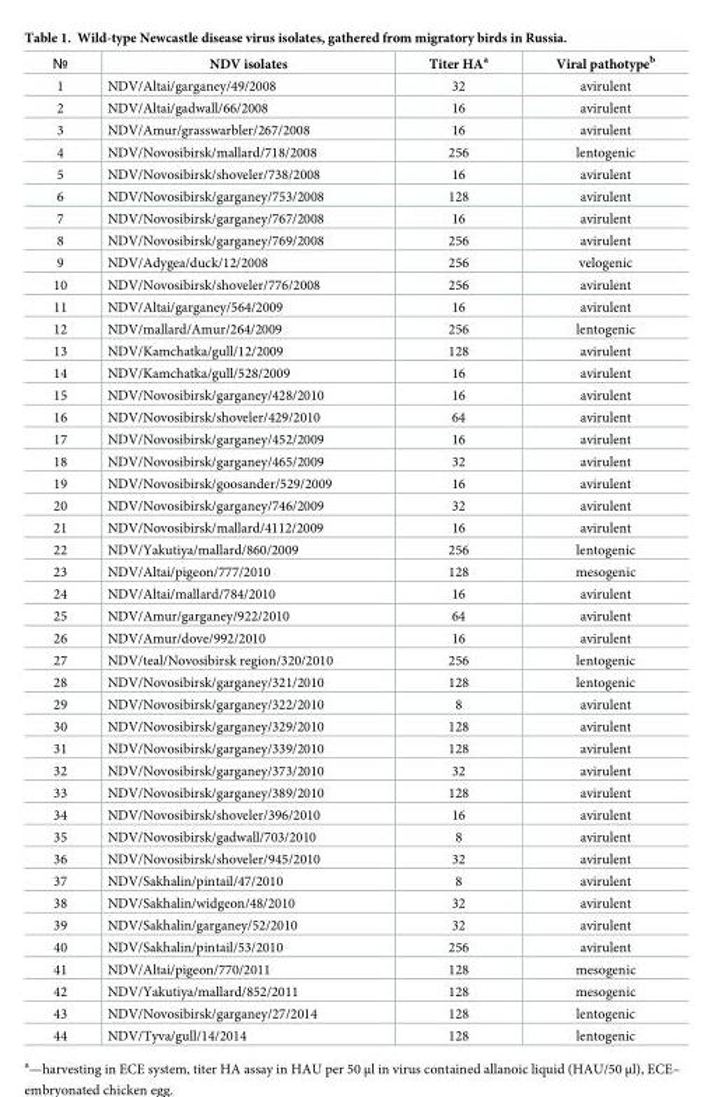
<table><thead><tr><td>№</td><td>NDV isolates</td><td>Titer HA<sup>a</sup></td><td>Viral pathotype<sup>b</sup></td></tr></thead><tbody><tr><td>1</td><td>NDV/Altai/garganey/49/2008</td><td>32</td><td>avirulent</td></tr><tr><td>2</td><td>NDV/Altai/gadwall/66/2008</td><td>16</td><td>avirulent</td></tr><tr><td>3</td><td>NDV/Amur/grasswarbler/267/2008</td><td>16</td><td>avirulent</td></tr><tr><td>4</td><td>NDV/Novosibirsk/mallard/718/2008</td><td>256</td><td>lentogenic</td></tr><tr><td>5</td><td>NDV/Novosibirsk/shoveler/738/2008</td><td>16</td><td>avirulent</td></tr><tr><td>6</td><td>NDV/Novosibirsk/garganey/753/2008</td><td>128</td><td>avirulent</td></tr><tr><td>7</td><td>NDV/Novosibirsk/garganey/767/2008</td><td>16</td><td>avirulent</td></tr><tr><td>8</td><td>NDV/Novosibirsk/garganey/769/2008</td><td>256</td><td>avirulent</td></tr><tr><td>9</td><td>NDV/Adygea/duck/12/2008</td><td>256</td><td>velogenic</td></tr><tr><td>10</td><td>NDV/Novosibirsk/shoveler/776/2008</td><td>256</td><td>avirulent</td></tr><tr><td>11</td><td>NDV/Altai/garganey/564/2009</td><td>16</td><td>avirulent</td></tr><tr><td>12</td><td>NDV/mallard/Amur/264/2009</td><td>256</td><td>lentogenic</td></tr><tr><td>13</td><td>NDV/Kamchatka/gull/12/2009</td><td>128</td><td>avirulent</td></tr><tr><td>14</td><td>NDV/Kamchatka/gull/528/2009</td><td>16</td><td>avirulent</td></tr><tr><td>15</td><td>NDV/Novosibirsk/garganey/428/2010</td><td>16</td><td>avirulent</td></tr><tr><td>16</td><td>NDV/Novosibirsk/shoveler/429/2010</td><td>64</td><td>avirulent</td></tr><tr><td>17</td><td>NDV/Novosibirsk/garganey/452/2009</td><td>16</td><td>avirulent</td></tr><tr><td>18</td><td>NDV/Novosibirsk/garganey/465/2009</td><td>32</td><td>avirulent</td></tr><tr><td>19</td><td>NDV/Novosibirsk/goosander/529/2009</td><td>16</td><td>avirulent</td></tr><tr><td>20</td><td>NDV/Novosibirsk/garganey/746/2009</td><td>32</td><td>avirulent</td></tr><tr><td>21</td><td>NDV/Novosibirsk/mallard/4112/2009</td><td>16</td><td>avirulent</td></tr><tr><td>22</td><td>NDV/Yakutiya/mallard/860/2009</td><td>256</td><td>lentogenic</td></tr><tr><td>23</td><td>NDV/Altai/pigeon/777/2010</td><td>128</td><td>mesogenic</td></tr><tr><td>24</td><td>NDV/Altai/mallard/784/2010</td><td>16</td><td>avirulent</td></tr><tr><td>25</td><td>NDV/Amur/garganey/922/2010</td><td>64</td><td>avirulent</td></tr><tr><td>26</td><td>NDV/Amur/dove/992/2010</td><td>16</td><td>avirulent</td></tr><tr><td>27</td><td>NDV/teal/Novosibirsk region/320/2010</td><td>256</td><td>lentogenic</td></tr><tr><td>28</td><td>NDV/Novosibirsk/garganey/321/2010</td><td>128</td><td>lentogenic</td></tr><tr><td>29</td><td>NDV/Novosibirsk/garganey/322/2010</td><td>8</td><td>avirulent</td></tr><tr><td>30</td><td>NDV/Novosibirsk/garganey/329/2010</td><td>128</td><td>avirulent</td></tr><tr><td>31</td><td>NDV/Novosibirsk/garganey/339/2010</td><td>128</td><td>avirulent</td></tr><tr><td>32</td><td>NDV/Novosibirsk/garganey/373/2010</td><td>32</td><td>avirulent</td></tr><tr><td>33</td><td>NDV/Novosibirsk/garganey/389/2010</td><td>128</td><td>avirulent</td></tr><tr><td>34</td><td>NDV/Novosibirsk/shoveler/396/2010</td><td>16</td><td>avirulent</td></tr><tr><td>35</td><td>NDV/Novosibirsk/gadwall/703/2010</td><td>8</td><td>avirulent</td></tr><tr><td>36</td><td>NDV/Novosibirsk/shoveler/945/2010</td><td>32</td><td>avirulent</td></tr><tr><td>37</td><td>NDV/Sakhalin/pintail/47/2010</td><td>8</td><td>avirulent</td></tr><tr><td>38</td><td>NDV/Sakhalin/widgeon/48/2010</td><td>32</td><td>avirulent</td></tr><tr><td>39</td><td>NDV/Sakhalin/garganey/52/2010</td><td>32</td><td>avirulent</td></tr><tr><td>40</td><td>NDV/Sakhalin/pintail/53/2010</td><td>256</td><td>avirulent</td></tr><tr><td>41</td><td>NDV/Altai/pigeon/770/2011</td><td>128</td><td>mesogenic</td></tr><tr><td>42</td><td>NDV/Yakutiya/mallard/852/2011</td><td>128</td><td>mesogenic</td></tr><tr><td>43</td><td>NDV/Novosibirsk/garganey/27/2014</td><td>128</td><td>lentogenic</td></tr><tr><td>44</td><td>NDV/Tyva/gull/14/2014</td><td>128</td><td>lentogenic</td></tr></tbody></table>